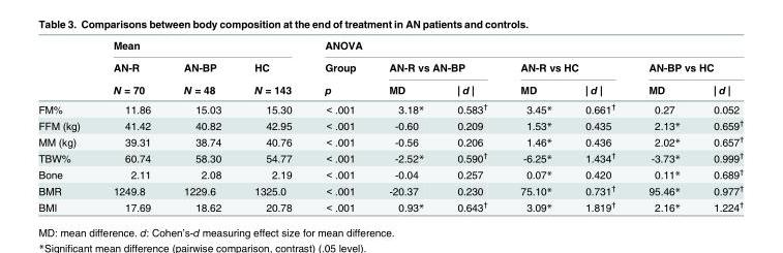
<table><thead><tr><td rowspan="3"></td><td colspan="3">Mean</td><td colspan="7">ANOVA</td></tr><tr><td rowspan="2">AN-R N = 70</td><td rowspan="2">AN-BP N = 48</td><td rowspan="2">HC N = 143</td><td rowspan="2">Group p</td><td colspan="2">AN-R vs AN-BP</td><td colspan="2">AN-R vs HC</td><td colspan="2">AN-BP vs HC</td></tr><tr><td>MD</td><td>| d |</td><td>MD</td><td>| d |</td><td>MD</td><td>| d |</td></tr></thead><tbody><tr><td>FM%</td><td>11.86</td><td>15.03</td><td>15.30</td><td>&lt; .001</td><td>3.18*</td><td>0.583<sup>†</sup></td><td>3.45*</td><td>0.661<sup>†</sup></td><td>0.27</td><td>0.052</td></tr><tr><td>FFM (kg)</td><td>41.42</td><td>40.82</td><td>42.95</td><td>&lt; .001</td><td>-0.60</td><td>0.209</td><td>1.53*</td><td>0.435</td><td>2.13*</td><td>0.659<sup>†</sup></td></tr><tr><td>MM (kg)</td><td>39.31</td><td>38.74</td><td>40.76</td><td>&lt; .001</td><td>-0.56</td><td>0.206</td><td>1.46*</td><td>0.436</td><td>2.02*</td><td>0.657<sup>†</sup></td></tr><tr><td>TBW%</td><td>60.74</td><td>58.30</td><td>54.77</td><td>&lt; .001</td><td>-2.52*</td><td>0.590<sup>†</sup></td><td>-6.25*</td><td>1.434<sup>†</sup></td><td>-3.73*</td><td>0.999<sup>†</sup></td></tr><tr><td>Bone</td><td>2.11</td><td>2.08</td><td>2.19</td><td>&lt; .001</td><td>-0.04</td><td>0.257</td><td>0.07*</td><td>0.420</td><td>0.11*</td><td>0.689<sup>†</sup></td></tr><tr><td>BMR</td><td>1249.8</td><td>1229.6</td><td>1325.0</td><td>&lt; .001</td><td>-20.37</td><td>0.230</td><td>75.10*</td><td>0.731<sup>†</sup></td><td>95.46*</td><td>0.977<sup>†</sup></td></tr><tr><td>BMI</td><td>17.69</td><td>18.62</td><td>20.78</td><td>&lt; .001</td><td>0.93*</td><td>0.643<sup>†</sup></td><td>3.09*</td><td>1.819<sup>†</sup></td><td>2.16*</td><td>1.224<sup>†</sup></td></tr></tbody></table>